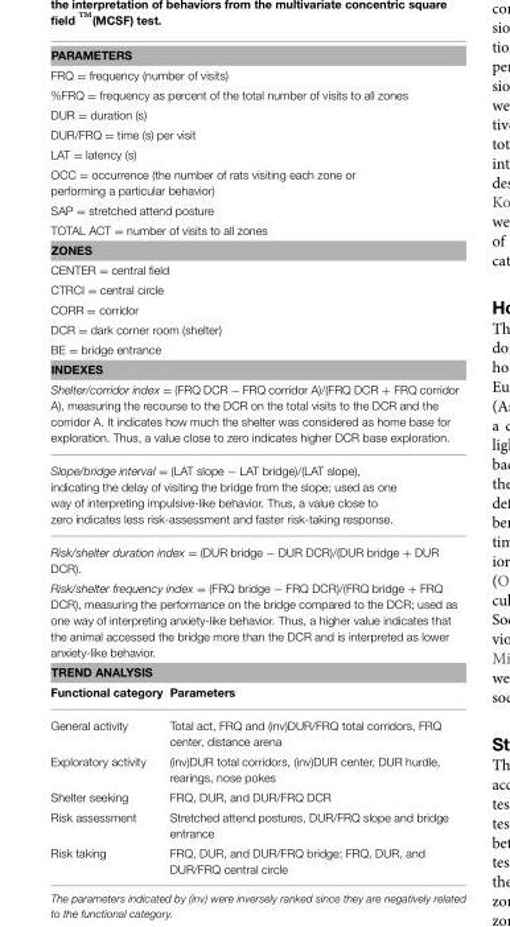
<table><tbody><tr><td colspan="2">PARAMETERS</td></tr><tr><td colspan="2">FRQ = frequency (number of visits)</td></tr><tr><td colspan="2">%FRQ = frequency as percent of the total number of visits to all zones</td></tr><tr><td colspan="2">DUR = duration (s)</td></tr><tr><td colspan="2">DUR/FRQ = time (s) per visit</td></tr><tr><td colspan="2">LAT = latency (s)</td></tr><tr><td colspan="2">OCC = occurrence (the number of rats visiting each zone or performing a particular behavior)</td></tr><tr><td colspan="2">SAP = stretched attend posture</td></tr><tr><td colspan="2">TOTAL ACT = number of visits to all zones</td></tr><tr><td colspan="2">ZONES</td></tr><tr><td colspan="2">CENTER = central field</td></tr><tr><td colspan="2">CTRCI = central circle</td></tr><tr><td colspan="2">CORR = corridor</td></tr><tr><td colspan="2">DCR = dark corner room (shelter)</td></tr><tr><td colspan="2">BE = bridge entrance</td></tr><tr><td colspan="2">INDEXES</td></tr><tr><td colspan="2">Shelter/corridor index = (FRQ DCR − FRQ corridor A)/(FRQ DCR + FRQ corridor A), measuring the recourse to the DCR on the total visits to the DCR and the corridor A. It indicates how much the shelter was considered as home base for exploration. Thus, a value close to zero indicates higher DCR base exploration.</td></tr><tr><td colspan="2">Slope/bridge interval = (LAT slope − LAT bridge)/(LAT slope), indicating the delay of visiting the bridge from the slope; used as one way of interpreting impulsive-like behavior. Thus, a value close to zero indicates less risk-assessment and faster risk-taking response.</td></tr><tr><td colspan="2">Risk/shelter duration index = (DUR bridge − DUR DCR)/(DUR bridge + DUR DCR). Risk/shelter frequency index = (FRQ bridge − FRQ DCR)/(FRQ bridge + FRQ DCR), measuring the performance on the bridge compared to the DCR; used as one way of interpreting anxiety-like behavior. Thus, a higher value indicates that the animal accessed the bridge more than the DCR and is interpreted as lower anxiety-like behavior.</td></tr><tr><td colspan="2">TREND ANALYSIS</td></tr><tr><td>Functional category</td><td>Parameters</td></tr><tr><td>General activity</td><td>Total act, FRQ and (inv)DUR/FRQ total corridors, FRQ center, distance arena</td></tr><tr><td>Exploratory activity</td><td>(inv)DUR total corridors, (inv)DUR center, DUR hurdle, rearings, nose pokes</td></tr><tr><td>Shelter seeking</td><td>FRQ, DUR, and DUR/FRQ DCR</td></tr><tr><td>Risk assessment</td><td>Stretched attend postures, DUR/FRQ slope and bridge entrance</td></tr><tr><td>Risk taking</td><td>FRQ, DUR, and DUR/FRQ bridge; FRQ, DUR, and DUR/FRQ central circle</td></tr></tbody></table>